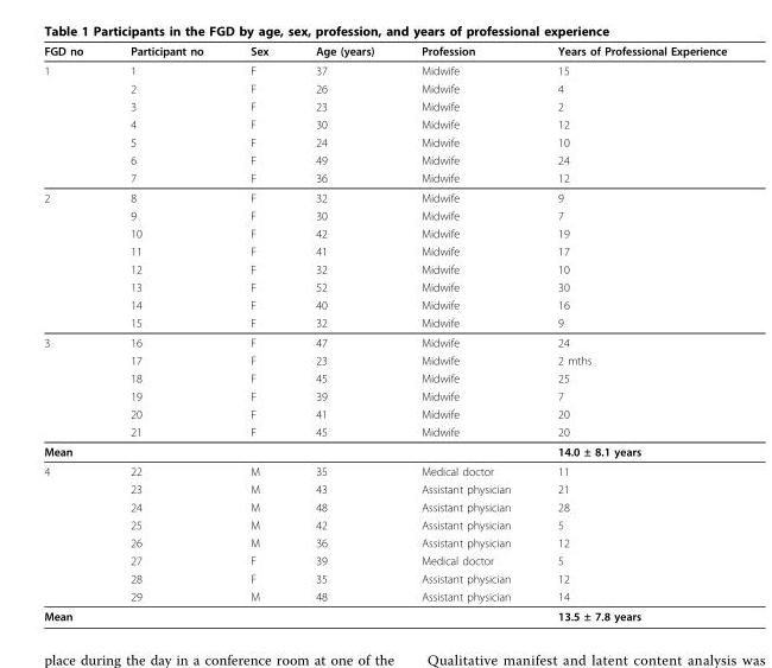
<table><thead><tr><td>FGD no</td><td>Participant no</td><td>Sex</td><td>Age (years)</td><td>Profession</td><td>Years of Professional Experience</td></tr></thead><tbody><tr><td rowspan="7">1</td><td>1</td><td>F</td><td>37</td><td>Midwife</td><td>15</td></tr><tr><td>2</td><td>F</td><td>26</td><td>Midwife</td><td>4</td></tr><tr><td>3</td><td>F</td><td>23</td><td>Midwife</td><td>2</td></tr><tr><td>4</td><td>F</td><td>30</td><td>Midwife</td><td>12</td></tr><tr><td>5</td><td>F</td><td>24</td><td>Midwife</td><td>10</td></tr><tr><td>6</td><td>F</td><td>49</td><td>Midwife</td><td>24</td></tr><tr><td>7</td><td>F</td><td>36</td><td>Midwife</td><td>12</td></tr><tr><td rowspan="8">2</td><td>8</td><td>F</td><td>32</td><td>Midwife</td><td>9</td></tr><tr><td>9</td><td>F</td><td>30</td><td>Midwife</td><td>7</td></tr><tr><td>10</td><td>F</td><td>42</td><td>Midwife</td><td>19</td></tr><tr><td>11</td><td>F</td><td>41</td><td>Midwife</td><td>17</td></tr><tr><td>12</td><td>F</td><td>32</td><td>Midwife</td><td>10</td></tr><tr><td>13</td><td>F</td><td>52</td><td>Midwife</td><td>30</td></tr><tr><td>14</td><td>F</td><td>40</td><td>Midwife</td><td>16</td></tr><tr><td>15</td><td>F</td><td>32</td><td>Midwife</td><td>9</td></tr><tr><td rowspan="6">3</td><td>16</td><td>F</td><td>47</td><td>Midwife</td><td>24</td></tr><tr><td>17</td><td>F</td><td>23</td><td>Midwife</td><td>2 mths</td></tr><tr><td>18</td><td>F</td><td>45</td><td>Midwife</td><td>25</td></tr><tr><td>19</td><td>F</td><td>39</td><td>Midwife</td><td>7</td></tr><tr><td>20</td><td>F</td><td>41</td><td>Midwife</td><td>20</td></tr><tr><td>21</td><td>F</td><td>45</td><td>Midwife</td><td>20</td></tr><tr><td>Mean</td><td></td><td></td><td></td><td></td><td>14.0 ± 8.1 years</td></tr><tr><td rowspan="8">4</td><td>22</td><td>M</td><td>35</td><td>Medical doctor</td><td>11</td></tr><tr><td>23</td><td>M</td><td>43</td><td>Assistant physician</td><td>21</td></tr><tr><td>24</td><td>M</td><td>48</td><td>Assistant physician</td><td>28</td></tr><tr><td>25</td><td>M</td><td>42</td><td>Assistant physician</td><td>5</td></tr><tr><td>26</td><td>M</td><td>36</td><td>Assistant physician</td><td>12</td></tr><tr><td>27</td><td>F</td><td>39</td><td>Medical doctor</td><td>5</td></tr><tr><td>28</td><td>F</td><td>35</td><td>Assistant physician</td><td>12</td></tr><tr><td>29</td><td>M</td><td>48</td><td>Assistant physician</td><td>14</td></tr><tr><td>Mean</td><td></td><td></td><td></td><td></td><td>13.5 ± 7.8 years</td></tr></tbody></table>